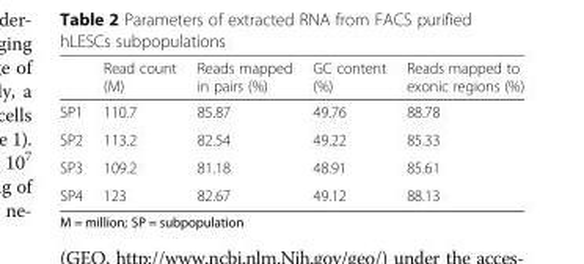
<table><thead><tr><td></td><td>Read count (M)</td><td>Reads mapped in pairs (%)</td><td>GC content (%)</td><td>Reads mapped to exonic regions (%)</td></tr></thead><tbody><tr><td>SP1</td><td>110.7</td><td>85.87</td><td>49.76</td><td>88.78</td></tr><tr><td>SP2</td><td>113.2</td><td>82.54</td><td>49.22</td><td>85.33</td></tr><tr><td>SP3</td><td>109.2</td><td>81.18</td><td>48.91</td><td>85.61</td></tr><tr><td>SP4</td><td>123</td><td>82.67</td><td>49.12</td><td>88.13</td></tr></tbody></table>